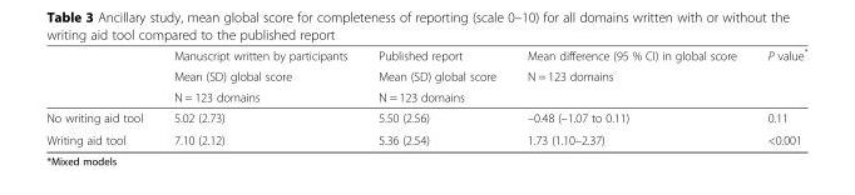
<table><thead><tr><td rowspan="3"></td><td rowspan="3">Manuscript written by participants Mean (SD) global score N = 123 domains</td><td rowspan="3">Published report Mean (SD) global score N = 123 domains</td><td rowspan="3">Mean difference (95 % CI) in global score N = 123 domains</td><td rowspan="3">P value*</td></tr><tr></tr><tr></tr></thead><tbody><tr><td>No writing aid tool</td><td>5.02 (2.73)</td><td>5.50 (2.56)</td><td>–0.48 (–1.07 to 0.11)</td><td>0.11</td></tr><tr><td>Writing aid tool</td><td>7.10 (2.12)</td><td>5.36 (2.54)</td><td>1.73 (1.10–2.37)</td><td>&lt;0.001</td></tr></tbody></table>